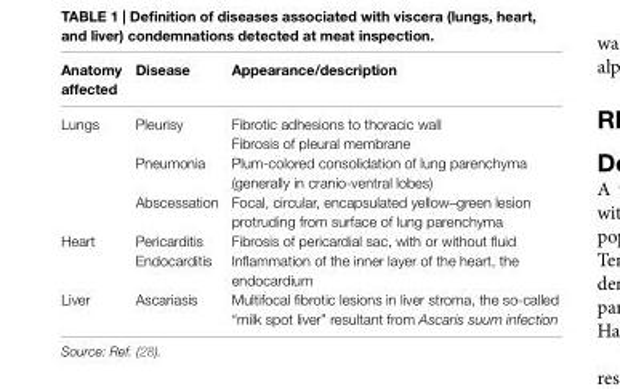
<table><thead><tr><td>anatomy affected</td><td>Disease</td><td>appearance/description</td></tr></thead><tbody><tr><td rowspan="4">Lungs</td><td rowspan="2">Pleurisy</td><td>Fibrotic adhesions to thoracic wall</td></tr><tr><td>Fibrosis of pleural membrane</td></tr><tr><td>Pneumonia</td><td>Plum-colored consolidation of lung parenchyma (generally in cranio-ventral lobes)</td></tr><tr><td>Abscessation</td><td>Focal, circular, encapsulated yellow–green lesion protruding from surface of lung parenchyma</td></tr><tr><td rowspan="2">Heart</td><td>Pericarditis</td><td>Fibrosis of pericardial sac, with or without fluid</td></tr><tr><td>Endocarditis</td><td>Inflammation of the inner layer of the heart, the endocardium</td></tr><tr><td>Liver</td><td>Ascariasis</td><td>Multifocal fibrotic lesions in liver stroma, the so-called “milk spot liver” resultant from Ascaris suum infection</td></tr></tbody></table>